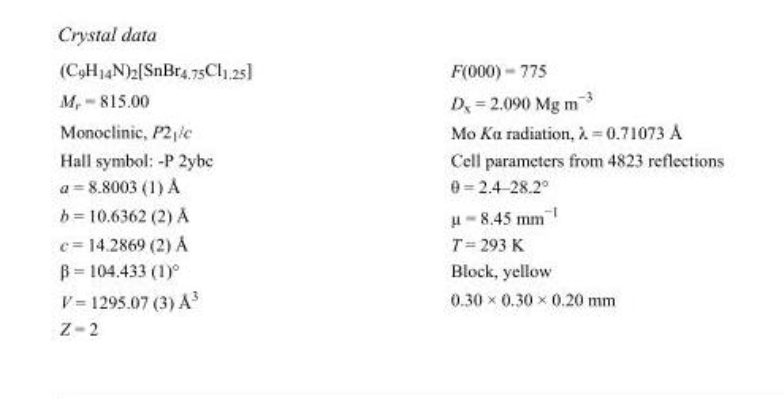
<table><tbody><tr><td>(C<sub>9</sub>H<sub>14</sub>N)<sub>2</sub>[SnBr<sub>4.75</sub>Cl<sub>1.25</sub>]</td><td>F(000) = 775</td></tr><tr><td>M<sub>r</sub> = 815.00</td><td>D<sub>x</sub> = 2.090 Mg m<sup>−3</sup></td></tr><tr><td>Monoclinic, P2<sub>1</sub>/c</td><td>Mo Kα radiation, λ = 0.71073 Å</td></tr><tr><td>Hall symbol: -P 2ybc</td><td>Cell parameters from 4823 reflections</td></tr><tr><td>a = 8.8003 (1) Å</td><td>θ = 2.4–28.2°</td></tr><tr><td>b = 10.6362 (2) Å</td><td>µ = 8.45 mm<sup>−1</sup></td></tr><tr><td>c = 14.2869 (2) Å</td><td>T = 293 K</td></tr><tr><td>β = 104.433 (1)°</td><td>Block, yellow</td></tr><tr><td>V = 1295.07 (3) Å<sup>3</sup></td><td>0.30 × 0.30 × 0.20 mm</td></tr><tr><td>Z = 2</td><td></td></tr></tbody></table>